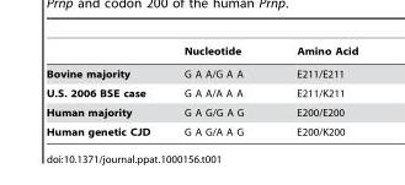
<table><thead><tr><td></td><td>Nucleotide</td><td>Amino Acid</td></tr></thead><tbody><tr><td>Bovine majority</td><td>G A A/G A A</td><td>E211/E211</td></tr><tr><td>U.S. 2006 BSE case</td><td>G A A/A A A</td><td>E211/K211</td></tr><tr><td>Human majority</td><td>G A G/G A G</td><td>E200/E200</td></tr><tr><td>Human genetic CJD</td><td>G A G/A A G</td><td>E200/K200</td></tr></tbody></table>